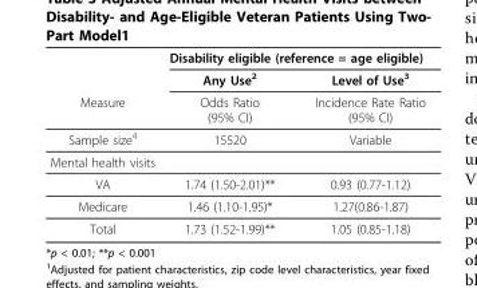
<table><thead><tr><td rowspan="3">Measure</td><td colspan="2">Disability eligible (reference = age eligible)</td></tr><tr><td rowspan="2">Any Use<sup>2</sup> Odds Ratio (95% CI)</td><td rowspan="2">Level of Use<sup>3</sup> Incidence Rate Ratio (95% CI)</td></tr><tr></tr></thead><tbody><tr><td>Sample size<sup>4</sup></td><td>15520</td><td>Variable</td></tr><tr><td colspan="3">Mental health visits</td></tr><tr><td>VA</td><td>1.74 (1.50-2.01)**</td><td>0.93 (0.77-1.12)</td></tr><tr><td>Medicare</td><td>1.46 (1.10-1.95)*</td><td>1.27(0.86-1.87)</td></tr><tr><td>Total</td><td>1.73 (1.52-1.99)**</td><td>1.05 (0.85-1.18)</td></tr></tbody></table>